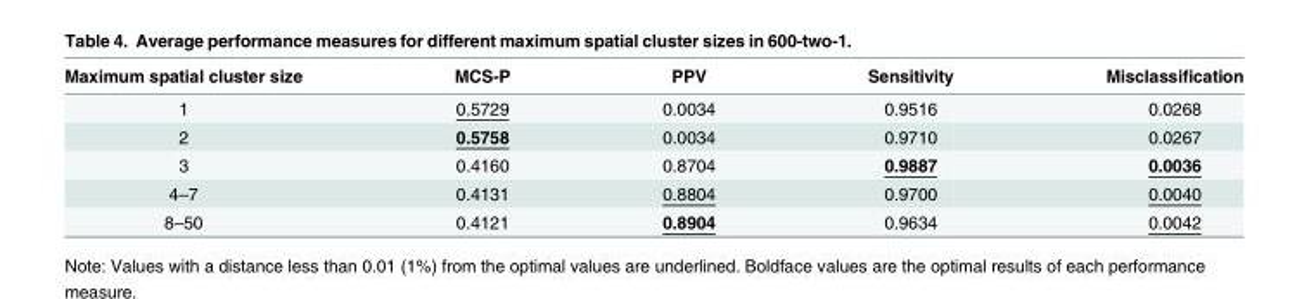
<table><thead><tr><td>Maximum spatial cluster size</td><td>MCS-P</td><td>PPV</td><td>Sensitivity</td><td>Misclassification</td></tr></thead><tbody><tr><td>1</td><td>0.5729</td><td>0.0034</td><td>0.9516</td><td>0.0268</td></tr><tr><td>2</td><td>0.5758</td><td>0.0034</td><td>0.9710</td><td>0.0267</td></tr><tr><td>3</td><td>0.4160</td><td>0.8704</td><td>0.9887</td><td>0.0036</td></tr><tr><td>4–7</td><td>0.4131</td><td>0.8804</td><td>0.9700</td><td>0.0040</td></tr><tr><td>8–50</td><td>0.4121</td><td>0.8904</td><td>0.9634</td><td>0.0042</td></tr></tbody></table>